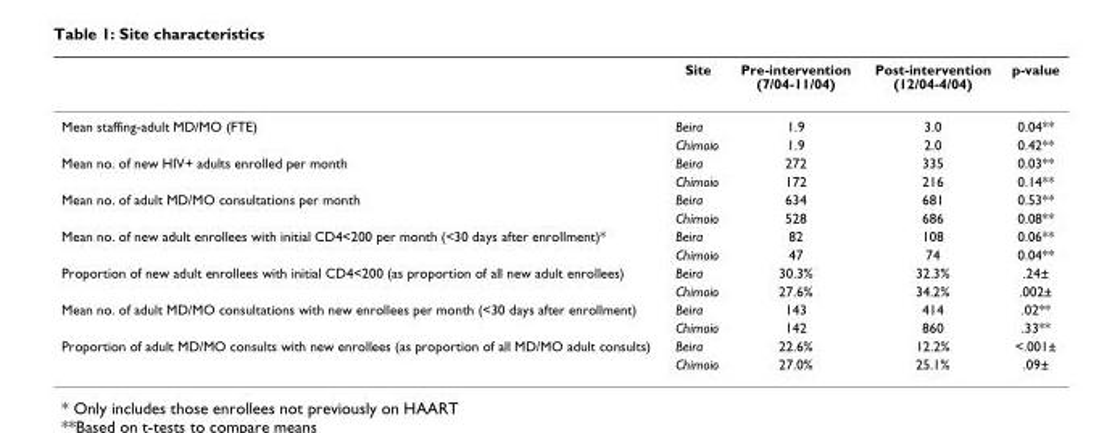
<table><thead><tr><td></td><td>Site</td><td>Pre-intervention (7/04-11/04)</td><td>Post-intervention (12/04-4/04)</td><td>p-value</td></tr></thead><tbody><tr><td rowspan="2">Mean staffing-adult MD/MO (FTE)</td><td>Beira</td><td>1.9</td><td>3.0</td><td>0.04**</td></tr><tr><td>Chimoio</td><td>1.9</td><td>2.0</td><td>0.42**</td></tr><tr><td rowspan="2">Mean no. of new HIV+ adults enrolled per month</td><td>Beira</td><td>272</td><td>335</td><td>0.03**</td></tr><tr><td>Chimoio</td><td>172</td><td>216</td><td>0.14**</td></tr><tr><td rowspan="2">Mean no. of adult MD/MO consultations per month</td><td>Beira</td><td>634</td><td>681</td><td>0.53**</td></tr><tr><td>Chimoio</td><td>528</td><td>686</td><td>0.08**</td></tr><tr><td rowspan="2">Mean no. of new adult enrollees with initial CD4&lt;200 per month (&lt;30 days after enrollment)*</td><td>Beira</td><td>82</td><td>108</td><td>0.06**</td></tr><tr><td>Chimoio</td><td>47</td><td>74</td><td>0.04**</td></tr><tr><td rowspan="2">Proportion of new adult enrollees with initial CD4&lt;200 (as proportion of all new adult enrollees)</td><td>Beira</td><td>30.3%</td><td>32.3%</td><td>.24±</td></tr><tr><td>Chimoio</td><td>27.6%</td><td>34.2%</td><td>.002±</td></tr><tr><td rowspan="2">Mean no. of adult MD/MO consultations with new enrollees per month (&lt;30 days after enrollment)</td><td>Beira</td><td>143</td><td>414</td><td>.02**</td></tr><tr><td>Chimoio</td><td>142</td><td>860</td><td>.33**</td></tr><tr><td rowspan="2">Proportion of adult MD/MO consults with new enrollees (as proportion of all MD/MO adult consults)</td><td>Beira</td><td>22.6%</td><td>12.2%</td><td>&lt;.001±</td></tr><tr><td>Chimoio</td><td>27.0%</td><td>25.1%</td><td>.09±</td></tr></tbody></table>